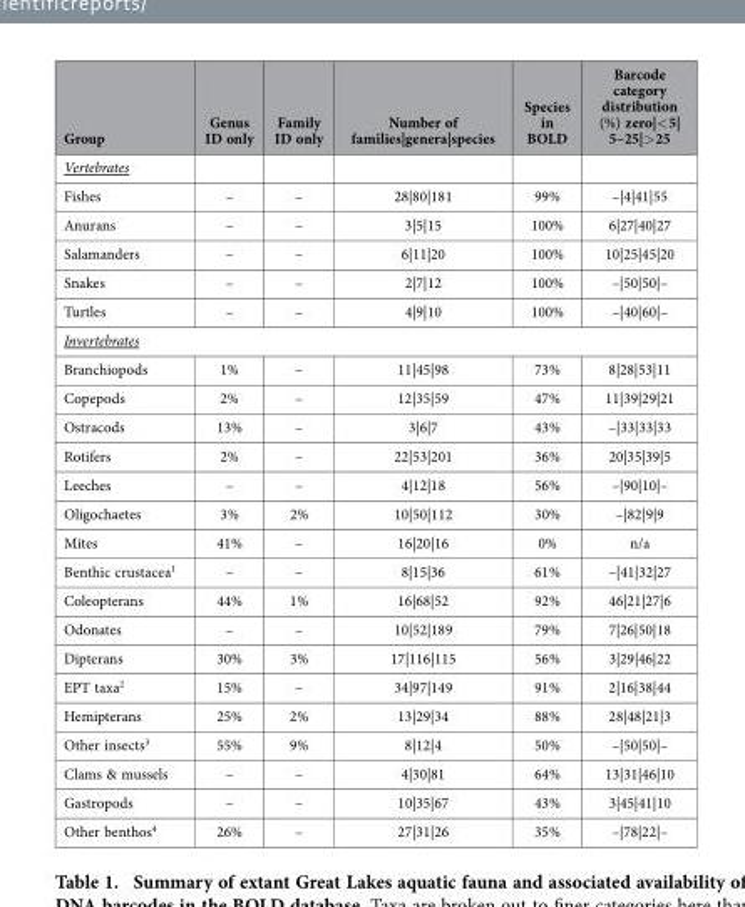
<table><thead><tr><td>Group</td><td>Genus ID only</td><td>Family ID only</td><td>Number of families|genera|species</td><td>Species in BOLD</td><td>Barcode category distribution (%) zero|&lt; 5| 5–25|&gt; 25</td></tr></thead><tbody><tr><td colspan="6">Vertebrates</td></tr><tr><td>Fishes</td><td>–</td><td>–</td><td>28|80|181</td><td>99%</td><td>–|4|41|55</td></tr><tr><td>Anurans</td><td>–</td><td>–</td><td>3|5|15</td><td>100%</td><td>6|27|40|27</td></tr><tr><td>Salamanders</td><td>–</td><td>–</td><td>6|11|20</td><td>100%</td><td>10|25|45|20</td></tr><tr><td>Snakes</td><td>–</td><td>–</td><td>2|7|12</td><td>100%</td><td>–|50|50|–</td></tr><tr><td>Turtles</td><td>–</td><td>–</td><td>4|9|10</td><td>100%</td><td>–|40|60|–</td></tr><tr><td colspan="6">Invertebrates</td></tr><tr><td>Branchiopods</td><td>1%</td><td>–</td><td>11|45|98</td><td>73%</td><td>8|28|53|11</td></tr><tr><td>Copepods</td><td>2%</td><td>–</td><td>12|35|59</td><td>47%</td><td>11|39|29|21</td></tr><tr><td>Ostracods</td><td>13%</td><td>–</td><td>3|6|7</td><td>43%</td><td>–|33|33|33</td></tr><tr><td>Rotifers</td><td>2%</td><td>–</td><td>22|53|201</td><td>36%</td><td>20|35|39|5</td></tr><tr><td>Leeches</td><td>–</td><td>–</td><td>4|12|18</td><td>56%</td><td>–|90|10|–</td></tr><tr><td>Oligochaetes</td><td>3%</td><td>2%</td><td>10|50|112</td><td>30%</td><td>–|82|9|9</td></tr><tr><td>Mites</td><td>41%</td><td>–</td><td>16|20|16</td><td>0%</td><td>n/a</td></tr><tr><td>Benthic crustacea<sup>1</sup></td><td>–</td><td>–</td><td>8|15|36</td><td>61%</td><td>–|41|32|27</td></tr><tr><td>Coleopterans</td><td>44%</td><td>1%</td><td>16|68|52</td><td>92%</td><td>46|21|27|6</td></tr><tr><td>Odonates</td><td>–</td><td>–</td><td>10|52|189</td><td>79%</td><td>7|26|50|18</td></tr><tr><td>Dipterans</td><td>30%</td><td>3%</td><td>17|116|115</td><td>56%</td><td>3|29|46|22</td></tr><tr><td>EPT taxa<sup>2</sup></td><td>15%</td><td>–</td><td>34|97|149</td><td>91%</td><td>2|16|38|44</td></tr><tr><td>Hemipterans</td><td>25%</td><td>2%</td><td>13|29|34</td><td>88%</td><td>28|48|21|3</td></tr><tr><td>Other insects<sup>3</sup></td><td>55%</td><td>9%</td><td>8|12|4</td><td>50%</td><td>–|50|50|–</td></tr><tr><td>Clams &amp; mussels</td><td>–</td><td>–</td><td>4|30|81</td><td>64%</td><td>13|31|46|10</td></tr><tr><td>Gastropods</td><td>–</td><td>–</td><td>10|35|67</td><td>43%</td><td>3|45|41|10</td></tr><tr><td>Other benthos<sup>4</sup></td><td>26%</td><td>–</td><td>27|31|26</td><td>35%</td><td>–|78|22|–</td></tr></tbody></table>